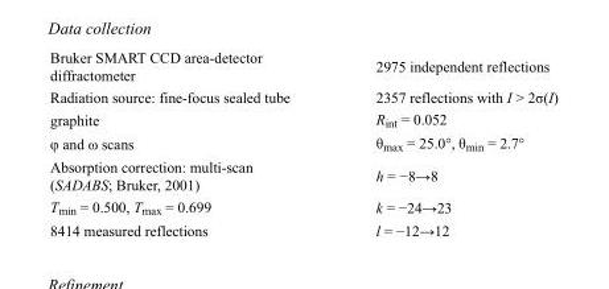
<table><tbody><tr><td>Bruker SMART CCD area-detector diffractometer</td><td>2975 independent reflections</td></tr><tr><td>Radiation source: fine-focus sealed tube</td><td>2357 reflections with I &gt; 2σ(I)</td></tr><tr><td>graphite</td><td>R<sub>int</sub> = 0.052</td></tr><tr><td>φ and ω scans</td><td>θ<sub>max</sub> = 25.0°, θ<sub>min</sub> = 2.7°</td></tr><tr><td>Absorption correction: multi-scan (SADABS; Bruker, 2001)</td><td>h = −8→8</td></tr><tr><td>T<sub>min</sub> = 0.500, T<sub>max</sub> = 0.699</td><td>k = −24→23</td></tr><tr><td>8414 measured reflections</td><td>l = −12→12</td></tr></tbody></table>